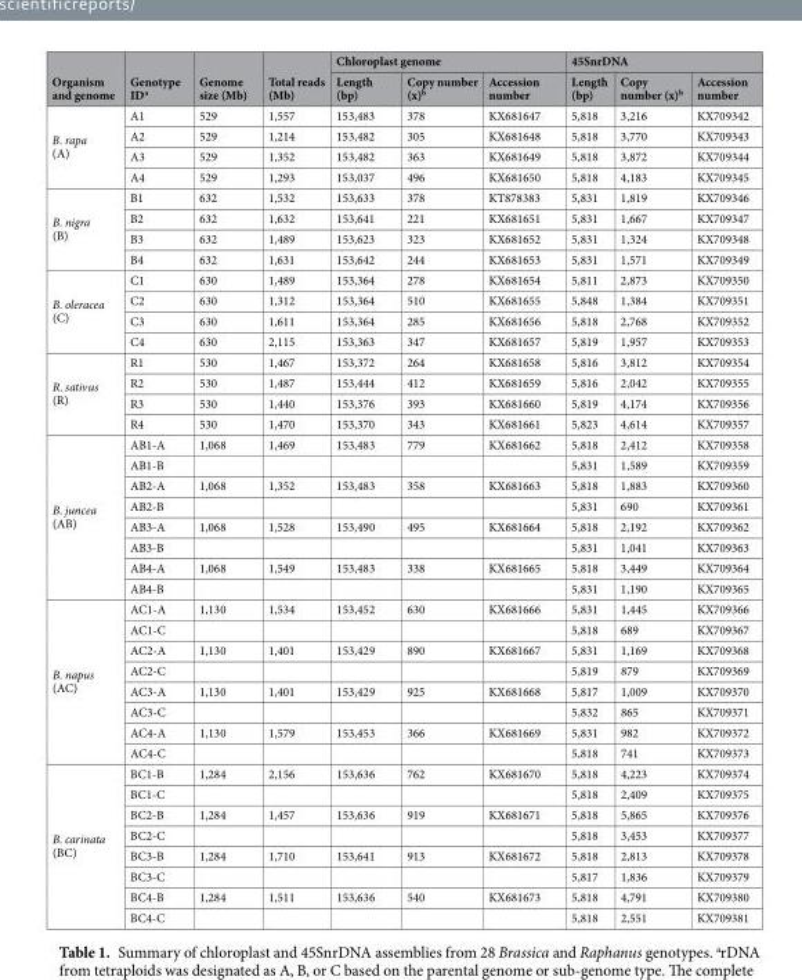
<table><thead><tr><td rowspan="2">Organism and genome</td><td rowspan="2">Genotype ID<sup>a</sup></td><td rowspan="2">Genome size (Mb)</td><td rowspan="2">Total reads (Mb)</td><td colspan="3">Chloroplast genome</td><td colspan="3">45SnrDNA</td></tr><tr><td>Length (bp)</td><td>Copy number (x)<sup>b</sup></td><td>Accession number</td><td>Length (bp)</td><td>Copy number (x)<sup>b</sup></td><td>Accession number</td></tr></thead><tbody><tr><td rowspan="4">B. rapa (A)</td><td>A1</td><td>529</td><td>1,557</td><td>153,483</td><td>378</td><td>KX681647</td><td>5,818</td><td>3,216</td><td>KX709342</td></tr><tr><td>A2</td><td>529</td><td>1,214</td><td>153,482</td><td>305</td><td>KX681648</td><td>5,818</td><td>3,770</td><td>KX709343</td></tr><tr><td>A3</td><td>529</td><td>1,352</td><td>153,482</td><td>363</td><td>KX681649</td><td>5,818</td><td>3,872</td><td>KX709344</td></tr><tr><td>A4</td><td>529</td><td>1,293</td><td>153,037</td><td>496</td><td>KX681650</td><td>5,818</td><td>4,183</td><td>KX709345</td></tr><tr><td rowspan="4">B. nigra (B)</td><td>B1</td><td>632</td><td>1,532</td><td>153,633</td><td>378</td><td>KT878383</td><td>5,831</td><td>1,819</td><td>KX709346</td></tr><tr><td>B2</td><td>632</td><td>1,632</td><td>153,641</td><td>221</td><td>KX681651</td><td>5,831</td><td>1,667</td><td>KX709347</td></tr><tr><td>B3</td><td>632</td><td>1,489</td><td>153,623</td><td>323</td><td>KX681652</td><td>5,831</td><td>1,324</td><td>KX709348</td></tr><tr><td>B4</td><td>632</td><td>1,631</td><td>153,642</td><td>244</td><td>KX681653</td><td>5,831</td><td>1,571</td><td>KX709349</td></tr><tr><td rowspan="4">B. oleracea (C)</td><td>C1</td><td>630</td><td>1,489</td><td>153,364</td><td>278</td><td>KX681654</td><td>5,811</td><td>2,873</td><td>KX709350</td></tr><tr><td>C2</td><td>630</td><td>1,312</td><td>153,364</td><td>510</td><td>KX681655</td><td>5,848</td><td>1,384</td><td>KX709351</td></tr><tr><td>C3</td><td>630</td><td>1,611</td><td>153,364</td><td>285</td><td>KX681656</td><td>5,818</td><td>2,768</td><td>KX709352</td></tr><tr><td>C4</td><td>630</td><td>2,115</td><td>153,363</td><td>347</td><td>KX681657</td><td>5,819</td><td>1,957</td><td>KX709353</td></tr><tr><td rowspan="4">R. sativus (R)</td><td>R1</td><td>530</td><td>1,467</td><td>153,372</td><td>264</td><td>KX681658</td><td>5,816</td><td>3,812</td><td>KX709354</td></tr><tr><td>R2</td><td>530</td><td>1,487</td><td>153,444</td><td>412</td><td>KX681659</td><td>5,816</td><td>2,042</td><td>KX709355</td></tr><tr><td>R3</td><td>530</td><td>1,440</td><td>153,376</td><td>393</td><td>KX681660</td><td>5,819</td><td>4,174</td><td>KX709356</td></tr><tr><td>R4</td><td>530</td><td>1,470</td><td>153,370</td><td>343</td><td>KX681661</td><td>5,823</td><td>4,614</td><td>KX709357</td></tr><tr><td rowspan="8">B. juncea (AB)</td><td>AB1-A</td><td>1,068</td><td>1,469</td><td>153,483</td><td>779</td><td>KX681662</td><td>5,818</td><td>2,412</td><td>KX709358</td></tr><tr><td>AB1-B</td><td></td><td></td><td></td><td></td><td></td><td>5,831</td><td>1,589</td><td>KX709359</td></tr><tr><td>AB2-A</td><td>1,068</td><td>1,352</td><td>153,483</td><td>358</td><td>KX681663</td><td>5,818</td><td>1,883</td><td>KX709360</td></tr><tr><td>AB2-B</td><td></td><td></td><td></td><td></td><td></td><td>5,831</td><td>690</td><td>KX709361</td></tr><tr><td>AB3-A</td><td>1,068</td><td>1,528</td><td>153,490</td><td>495</td><td>KX681664</td><td>5,818</td><td>2,192</td><td>KX709362</td></tr><tr><td>AB3-B</td><td></td><td></td><td></td><td></td><td></td><td>5,831</td><td>1,041</td><td>KX709363</td></tr><tr><td>AB4-A</td><td>1,068</td><td>1,549</td><td>153,483</td><td>338</td><td>KX681665</td><td>5,818</td><td>3,449</td><td>KX709364</td></tr><tr><td>AB4-B</td><td></td><td></td><td></td><td></td><td></td><td>5,831</td><td>1,190</td><td>KX709365</td></tr><tr><td rowspan="8">B. napus (AC)</td><td>AC1-A</td><td>1,130</td><td>1,534</td><td>153,452</td><td>630</td><td>KX681666</td><td>5,831</td><td>1,445</td><td>KX709366</td></tr><tr><td>AC1-C</td><td></td><td></td><td></td><td></td><td></td><td>5,818</td><td>689</td><td>KX709367</td></tr><tr><td>AC2-A</td><td>1,130</td><td>1,401</td><td>153,429</td><td>890</td><td>KX681667</td><td>5,831</td><td>1,169</td><td>KX709368</td></tr><tr><td>AC2-C</td><td></td><td></td><td></td><td></td><td></td><td>5,819</td><td>879</td><td>KX709369</td></tr><tr><td>AC3-A</td><td>1,130</td><td>1,401</td><td>153,429</td><td>925</td><td>KX681668</td><td>5,817</td><td>1,009</td><td>KX709370</td></tr><tr><td>AC3-C</td><td></td><td></td><td></td><td></td><td></td><td>5,832</td><td>865</td><td>KX709371</td></tr><tr><td>AC4-A</td><td>1,130</td><td>1,579</td><td>153,453</td><td>366</td><td>KX681669</td><td>5,831</td><td>982</td><td>KX709372</td></tr><tr><td>AC4-C</td><td></td><td></td><td></td><td></td><td></td><td>5,818</td><td>741</td><td>KX709373</td></tr><tr><td rowspan="8">B. carinata (BC)</td><td>BC1-B</td><td>1,284</td><td>2,156</td><td>153,636</td><td>762</td><td>KX681670</td><td>5,818</td><td>4,223</td><td>KX709374</td></tr><tr><td>BC1-C</td><td></td><td></td><td></td><td></td><td></td><td>5,818</td><td>2,409</td><td>KX709375</td></tr><tr><td>BC2-B</td><td>1,284</td><td>1,457</td><td>153,636</td><td>919</td><td>KX681671</td><td>5,818</td><td>5,865</td><td>KX709376</td></tr><tr><td>BC2-C</td><td></td><td></td><td></td><td></td><td></td><td>5,818</td><td>3,453</td><td>KX709377</td></tr><tr><td>BC3-B</td><td>1,284</td><td>1,710</td><td>153,641</td><td>913</td><td>KX681672</td><td>5,818</td><td>2,813</td><td>KX709378</td></tr><tr><td>BC3-C</td><td></td><td></td><td></td><td></td><td></td><td>5,817</td><td>1,836</td><td>KX709379</td></tr><tr><td>BC4-B</td><td>1,284</td><td>1,511</td><td>153,636</td><td>540</td><td>KX681673</td><td>5,818</td><td>4,791</td><td>KX709380</td></tr><tr><td>BC4-C</td><td></td><td></td><td></td><td></td><td></td><td>5,818</td><td>2,551</td><td>KX709381</td></tr></tbody></table>